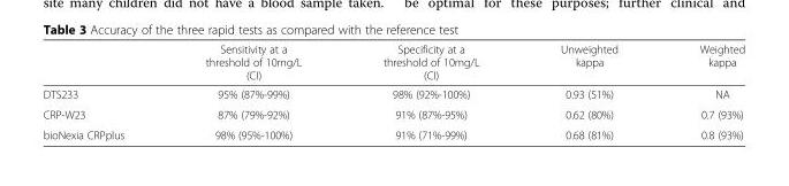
<table><thead><tr><td></td><td>Sensitivity at a threshold of 10mg/L (CI)</td><td>Specificity at a threshold of 10mg/L (CI)</td><td>Unweighted kappa</td><td>Weighted kappa</td></tr></thead><tbody><tr><td>DTS233</td><td>95% (87%-99%)</td><td>98% (92%-100%)</td><td>0.93 (51%)</td><td>NA</td></tr><tr><td>CRP-W23</td><td>87% (79%-92%)</td><td>91% (87%-95%)</td><td>0.62 (80%)</td><td>0.7 (93%)</td></tr><tr><td>bioNexia CRPplus</td><td>98% (95%-100%)</td><td>91% (71%-99%)</td><td>0.68 (81%)</td><td>0.8 (93%)</td></tr></tbody></table>